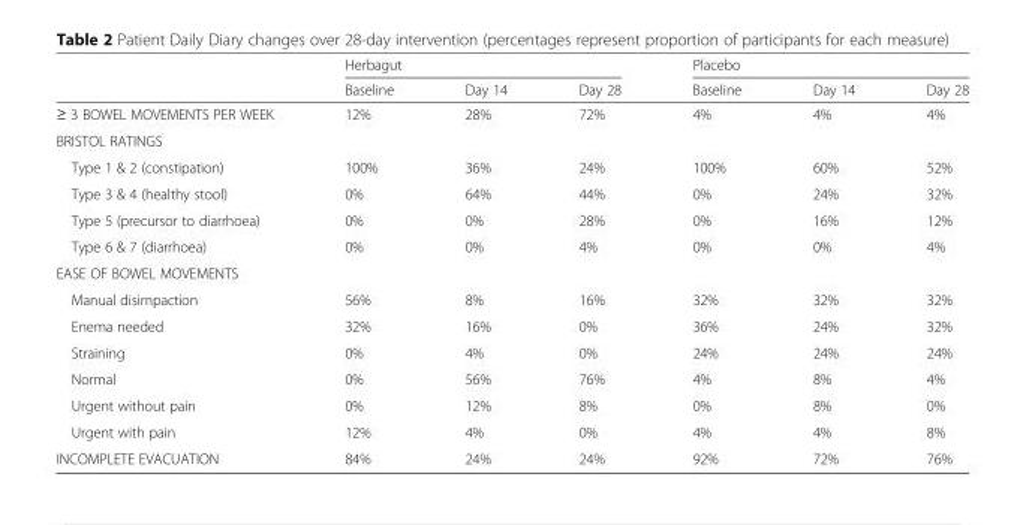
<table><thead><tr><td rowspan="2"></td><td colspan="3">Herbagut</td><td colspan="3">Placebo</td></tr><tr><td>Baseline</td><td>Day 14</td><td>Day 28</td><td>Baseline</td><td>Day 14</td><td>Day 28</td></tr></thead><tbody><tr><td>≥ 3 BOWEL MOVEMENTS PER WEEK</td><td>12%</td><td>28%</td><td>72%</td><td>4%</td><td>4%</td><td>4%</td></tr><tr><td colspan="7">BRISTOL RATINGS</td></tr><tr><td>Type 1 &amp; 2 (constipation)</td><td>100%</td><td>36%</td><td>24%</td><td>100%</td><td>60%</td><td>52%</td></tr><tr><td>Type 3 &amp; 4 (healthy stool)</td><td>0%</td><td>64%</td><td>44%</td><td>0%</td><td>24%</td><td>32%</td></tr><tr><td>Type 5 (precursor to diarrhoea)</td><td>0%</td><td>0%</td><td>28%</td><td>0%</td><td>16%</td><td>12%</td></tr><tr><td>Type 6 &amp; 7 (diarrhoea)</td><td>0%</td><td>0%</td><td>4%</td><td>0%</td><td>0%</td><td>4%</td></tr><tr><td colspan="7">EASE OF BOWEL MOVEMENTS</td></tr><tr><td>Manual disimpaction</td><td>56%</td><td>8%</td><td>16%</td><td>32%</td><td>32%</td><td>32%</td></tr><tr><td>Enema needed</td><td>32%</td><td>16%</td><td>0%</td><td>36%</td><td>24%</td><td>32%</td></tr><tr><td>Straining</td><td>0%</td><td>4%</td><td>0%</td><td>24%</td><td>24%</td><td>24%</td></tr><tr><td>Normal</td><td>0%</td><td>56%</td><td>76%</td><td>4%</td><td>8%</td><td>4%</td></tr><tr><td>Urgent without pain</td><td>0%</td><td>12%</td><td>8%</td><td>0%</td><td>8%</td><td>0%</td></tr><tr><td>Urgent with pain</td><td>12%</td><td>4%</td><td>0%</td><td>4%</td><td>4%</td><td>8%</td></tr><tr><td>INCOMPLETE EVACUATION</td><td>84%</td><td>24%</td><td>24%</td><td>92%</td><td>72%</td><td>76%</td></tr></tbody></table>